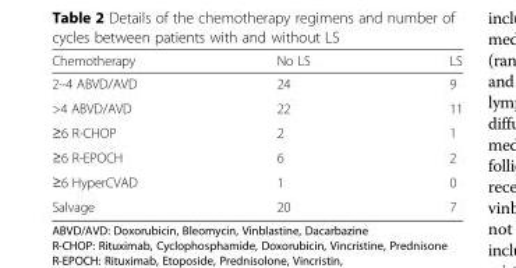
<table><thead><tr><td>Chemotherapy</td><td>No LS</td><td>LS</td></tr></thead><tbody><tr><td>2–4 ABVD/AVD</td><td>24</td><td>9</td></tr><tr><td>&gt;4 ABVD/AVD</td><td>22</td><td>11</td></tr><tr><td>≥6 R-CHOP</td><td>2</td><td>1</td></tr><tr><td>≥6 R-EPOCH</td><td>6</td><td>2</td></tr><tr><td>≥6 HyperCVAD</td><td>1</td><td>0</td></tr><tr><td>Salvage</td><td>20</td><td>7</td></tr></tbody></table>